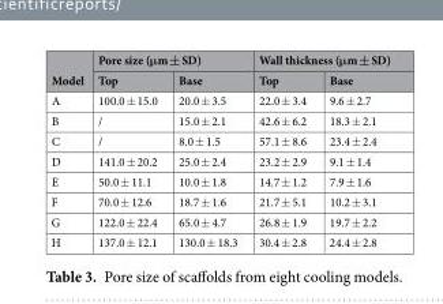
<table><thead><tr><td rowspan="2">Model</td><td colspan="2">Pore size (μm ± SD)</td><td colspan="2">Wall thickness (μm ± SD)</td></tr><tr><td>Top</td><td>Base</td><td>Top</td><td>Base</td></tr></thead><tbody><tr><td>A</td><td>100.0 ± 15.0</td><td>20.0 ± 3.5</td><td>22.0 ± 3.4</td><td>9.6 ± 2.7</td></tr><tr><td>B</td><td>/</td><td>15.0 ± 2.1</td><td>42.6 ± 6.2</td><td>18.3 ± 2.1</td></tr><tr><td>C</td><td>/</td><td>8.0 ± 1.5</td><td>57.1 ± 8.6</td><td>23.4 ± 2.4</td></tr><tr><td>D</td><td>141.0 ± 20.2</td><td>25.0 ± 2.4</td><td>23.2 ± 2.9</td><td>9.1 ± 1.4</td></tr><tr><td>E</td><td>50.0 ± 11.1</td><td>10.0 ± 1.8</td><td>14.7 ± 1.2</td><td>7.9 ± 1.6</td></tr><tr><td>F</td><td>70.0 ± 12.6</td><td>18.7 ± 1.6</td><td>21.7 ± 5.1</td><td>10.2 ± 3.1</td></tr><tr><td>G</td><td>122.0 ± 22.4</td><td>65.0 ± 4.7</td><td>26.8 ± 1.9</td><td>19.7 ± 2.2</td></tr><tr><td>H</td><td>137.0 ± 12.1</td><td>130.0 ± 18.3</td><td>30.4 ± 2.8</td><td>24.4 ± 2.8</td></tr></tbody></table>